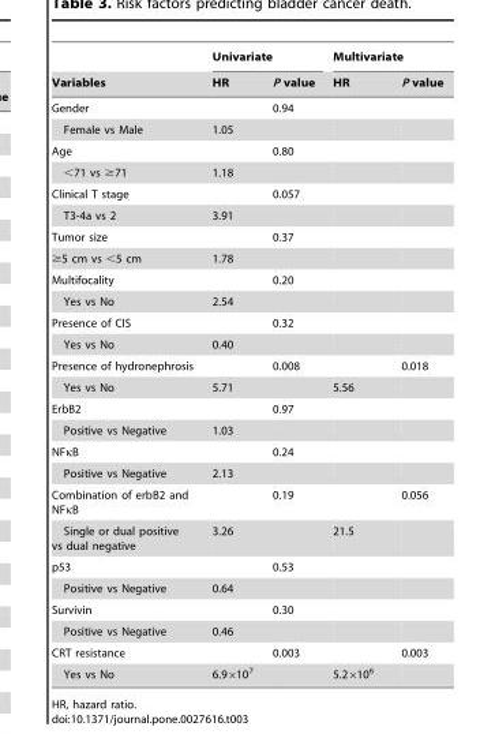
<table><thead><tr><td rowspan="2">Variables</td><td colspan="2">Univariate</td><td colspan="2">Multivariate</td></tr><tr><td>HR</td><td>P value</td><td>HR</td><td>P value</td></tr></thead><tbody><tr><td>Gender</td><td></td><td>0.94</td><td></td><td></td></tr><tr><td>Female vs Male</td><td>1.05</td><td></td><td></td><td></td></tr><tr><td>Age</td><td></td><td>0.80</td><td></td><td></td></tr><tr><td>&lt;71 vs ≥71</td><td>1.18</td><td></td><td></td><td></td></tr><tr><td>Clinical T stage</td><td></td><td>0.057</td><td></td><td></td></tr><tr><td>T3-4a vs 2</td><td>3.91</td><td></td><td></td><td></td></tr><tr><td>Tumor size</td><td></td><td>0.37</td><td></td><td></td></tr><tr><td>≥5 cm vs &lt;5 cm</td><td>1.78</td><td></td><td></td><td></td></tr><tr><td>Multifocality</td><td></td><td>0.20</td><td></td><td></td></tr><tr><td>Yes vs No</td><td>2.54</td><td></td><td></td><td></td></tr><tr><td>Presence of CIS</td><td></td><td>0.32</td><td></td><td></td></tr><tr><td>Yes vs No</td><td>0.40</td><td></td><td></td><td></td></tr><tr><td>Presence of hydronephrosis</td><td></td><td>0.008</td><td></td><td>0.018</td></tr><tr><td>Yes vs No</td><td>5.71</td><td></td><td>5.56</td><td></td></tr><tr><td>ErbB2</td><td></td><td>0.97</td><td></td><td></td></tr><tr><td>Positive vs Negative</td><td>1.03</td><td></td><td></td><td></td></tr><tr><td>NFκB</td><td></td><td>0.24</td><td></td><td></td></tr><tr><td>Positive vs Negative</td><td>2.13</td><td></td><td></td><td></td></tr><tr><td>Combination of erbB2 and NFκB</td><td></td><td>0.19</td><td></td><td>0.056</td></tr><tr><td>Single or dual positive vs dual negative</td><td>3.26</td><td></td><td>21.5</td><td></td></tr><tr><td>p53</td><td></td><td>0.53</td><td></td><td></td></tr><tr><td>Positive vs Negative</td><td>0.64</td><td></td><td></td><td></td></tr><tr><td>Survivin</td><td></td><td>0.30</td><td></td><td></td></tr><tr><td>Positive vs Negative</td><td>0.46</td><td></td><td></td><td></td></tr><tr><td>CRT resistance</td><td></td><td>0.003</td><td></td><td>0.003</td></tr><tr><td>Yes vs No</td><td>6.9×10<sup>7</sup></td><td></td><td>5.2×10<sup>6</sup></td><td></td></tr></tbody></table>